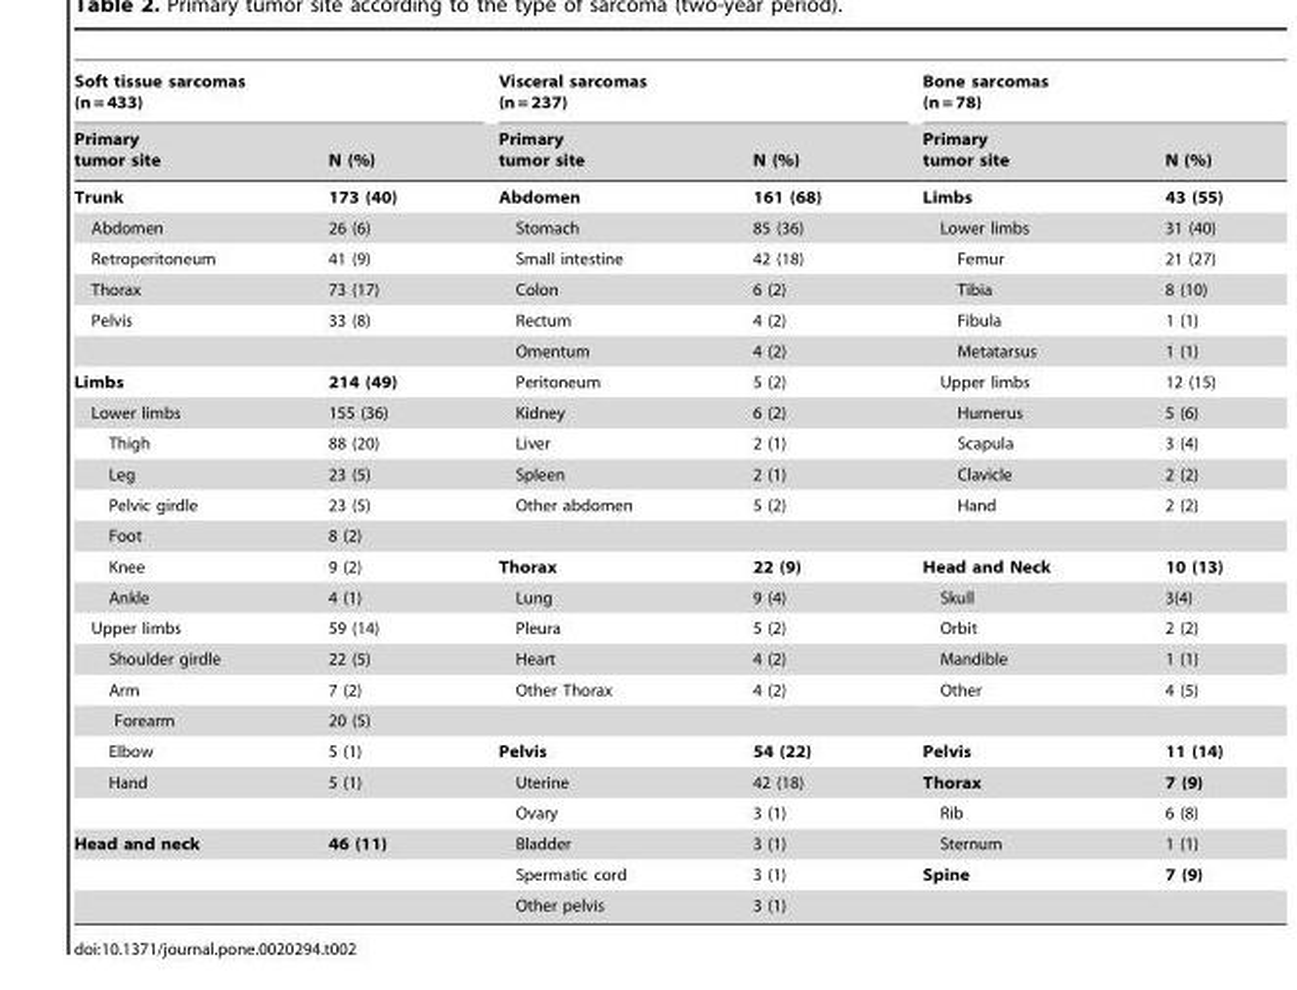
<table><thead><tr><td colspan="2">Soft tissue sarcomas (n = 433)</td><td colspan="2">Visceral sarcomas (n = 237)</td><td colspan="2">Bone sarcomas (n = 78)</td></tr><tr><td>Primary tumor site</td><td>N (%)</td><td>Primary tumor site</td><td>N (%)</td><td>Primary tumor site</td><td>N (%)</td></tr></thead><tbody><tr><td>Trunk</td><td>173 (40)</td><td>Abdomen</td><td>161 (68)</td><td>Limbs</td><td>43 (55)</td></tr><tr><td>Abdomen</td><td>26 (6)</td><td>Stomach</td><td>85 (36)</td><td>Lower limbs</td><td>31 (40)</td></tr><tr><td>Retroperitoneum</td><td>41 (9)</td><td>Small intestine</td><td>42 (18)</td><td>Femur</td><td>21 (27)</td></tr><tr><td>Thorax</td><td>73 (17)</td><td>Colon</td><td>6 (2)</td><td>Tibia</td><td>8 (10)</td></tr><tr><td rowspan="2">Pelvis</td><td>33 (8)</td><td>Rectum</td><td>4 (2)</td><td>Fibula</td><td>1 (1)</td></tr><tr><td></td><td>Omentum</td><td>4 (2)</td><td>Metatarsus</td><td>1 (1)</td></tr><tr><td>Limbs</td><td>214 (49)</td><td>Peritoneum</td><td>5 (2)</td><td>Upper limbs</td><td>12 (15)</td></tr><tr><td>Lower limbs</td><td>155 (36)</td><td>Kidney</td><td>6 (2)</td><td>Humerus</td><td>5 (6)</td></tr><tr><td>Thigh</td><td>88 (20)</td><td>Liver</td><td>2 (1)</td><td>Scapula</td><td>3 (4)</td></tr><tr><td>Leg</td><td>23 (5)</td><td>Spleen</td><td>2 (1)</td><td>Clavicle</td><td>2 (2)</td></tr><tr><td>Pelvic girdle</td><td>23 (5)</td><td>Other abdomen</td><td>5 (2)</td><td>Hand</td><td>2 (2)</td></tr><tr><td>Foot</td><td>8 (2)</td><td></td><td></td><td></td><td></td></tr><tr><td>Knee</td><td>9 (2)</td><td>Thorax</td><td>22 (9)</td><td>Head and Neck</td><td>10 (13)</td></tr><tr><td>Ankle</td><td>4 (1)</td><td>Lung</td><td>9 (4)</td><td>Skull</td><td>3(4)</td></tr><tr><td>Upper limbs</td><td>59 (14)</td><td>Pleura</td><td>5 (2)</td><td>Orbit</td><td>2 (2)</td></tr><tr><td>Shoulder girdle</td><td>22 (5)</td><td>Heart</td><td>4 (2)</td><td>Mandible</td><td>1 (1)</td></tr><tr><td>Arm</td><td>7 (2)</td><td>Other Thorax</td><td>4 (2)</td><td>Other</td><td>4 (5)</td></tr><tr><td>Forearm</td><td>20 (5)</td><td></td><td></td><td></td><td></td></tr><tr><td>Elbow</td><td>5 (1)</td><td>Pelvis</td><td>54 (22)</td><td>Pelvis</td><td>11 (14)</td></tr><tr><td rowspan="2">Hand</td><td>5 (1)</td><td>Uterine</td><td>42 (18)</td><td>Thorax</td><td>7 (9)</td></tr><tr><td></td><td>Ovary</td><td>3 (1)</td><td>Rib</td><td>6 (8)</td></tr><tr><td rowspan="3">Head and neck</td><td>46 (11)</td><td>Bladder</td><td>3 (1)</td><td>Sternum</td><td>1 (1)</td></tr><tr><td></td><td>Spermatic cord</td><td>3 (1)</td><td>Spine</td><td>7 (9)</td></tr><tr><td></td><td>Other pelvis</td><td>3 (1)</td><td></td><td></td></tr></tbody></table>